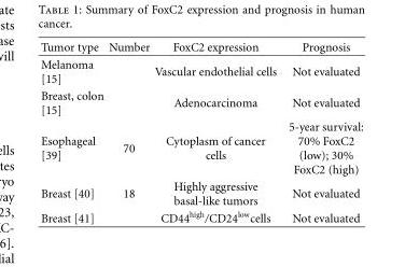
<table><thead><tr><td>Tumor type</td><td>Number</td><td>FoxC2 expression</td><td>Prognosis</td></tr></thead><tbody><tr><td>Melanoma [15]</td><td></td><td>Vascular endothelial cells</td><td>Not evaluated</td></tr><tr><td>Breast, colon [15]</td><td></td><td>Adenocarcinoma</td><td>Not evaluated</td></tr><tr><td>Esophageal [39]</td><td>70</td><td>Cytoplasm of cancer cells</td><td>5-year survival: 70% FoxC2 (low); 30% FoxC2 (high)</td></tr><tr><td>Breast [40]</td><td>18</td><td>Highly aggressive basal-like tumors</td><td>Not evaluated</td></tr><tr><td>Breast [41]</td><td></td><td>CD44<sup>high</sup>/CD24<sup>low</sup>cells</td><td>Not evaluated</td></tr></tbody></table>